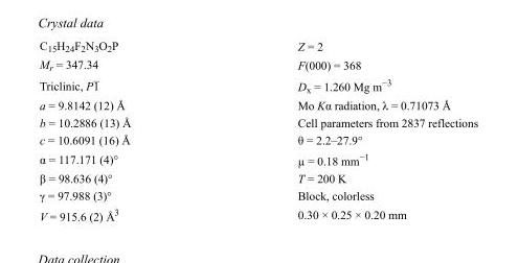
<table><tbody><tr><td>C<sub>15</sub>H<sub>24</sub>F<sub>2</sub>N<sub>3</sub>O<sub>2</sub>P</td><td>Z = 2</td></tr><tr><td>M<sub>r</sub> = 347.34</td><td>F(000) = 368</td></tr><tr><td>Triclinic, P1</td><td>D<sub>x</sub> = 1.260 Mg m<sup>−3</sup></td></tr><tr><td>a = 9.8142 (12) Å</td><td>Mo Kα radiation, λ = 0.71073 Å</td></tr><tr><td>b = 10.2886 (13) Å</td><td>Cell parameters from 2837 reflections</td></tr><tr><td>c = 10.6091 (16) Å</td><td>θ = 2.2–27.9°</td></tr><tr><td>α = 117.171 (4)°</td><td>µ = 0.18 mm<sup>−1</sup></td></tr><tr><td>β = 98.636 (4)°</td><td>T = 200 K</td></tr><tr><td>γ = 97.988 (3)°</td><td>Block, colorless</td></tr><tr><td>V = 915.6 (2) Å<sup>3</sup></td><td>0.30 × 0.25 × 0.20 mm</td></tr></tbody></table>